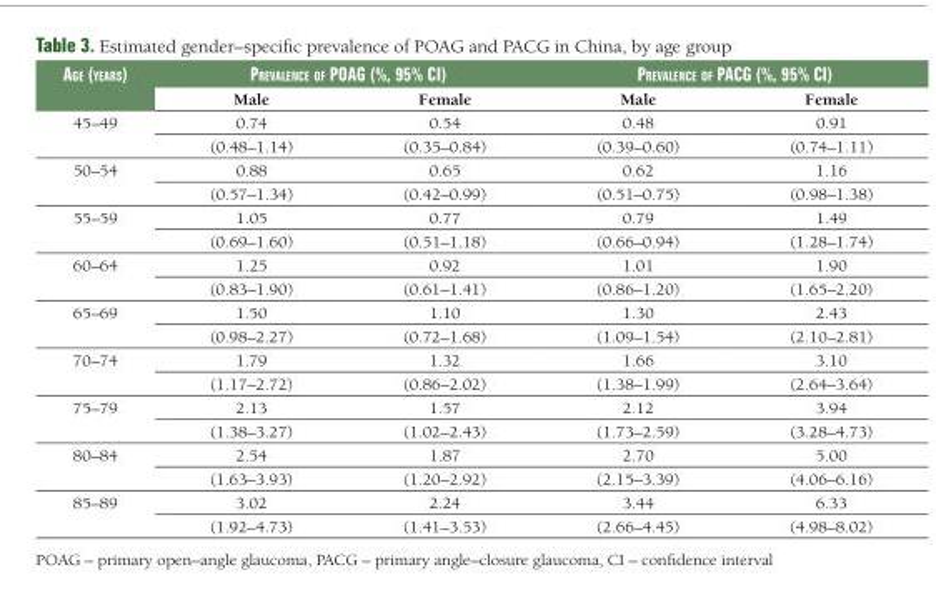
<table><thead><tr><td rowspan="2">age (yeaRs)</td><td colspan="2">pRevalence of poag (%, 95% ci)</td><td colspan="2">pRevalence of pacg (%, 95% ci)</td></tr><tr><td>Male</td><td>Female</td><td>Male</td><td>Female</td></tr></thead><tbody><tr><td rowspan="2">45–49</td><td>0.74</td><td>0.54</td><td>0.48</td><td>0.91</td></tr><tr><td>(0.48–1.14)</td><td>(0.35–0.84)</td><td>(0.39–0.60)</td><td>(0.74–1.11)</td></tr><tr><td rowspan="2">50–54</td><td>0.88</td><td>0.65</td><td>0.62</td><td>1.16</td></tr><tr><td>(0.57–1.34)</td><td>(0.42–0.99)</td><td>(0.51–0.75)</td><td>(0.98–1.38)</td></tr><tr><td rowspan="2">55–59</td><td>1.05</td><td>0.77</td><td>0.79</td><td>1.49</td></tr><tr><td>(0.69–1.60)</td><td>(0.51–1.18)</td><td>(0.66–0.94)</td><td>(1.28–1.74)</td></tr><tr><td rowspan="2">60–64</td><td>1.25</td><td>0.92</td><td>1.01</td><td>1.90</td></tr><tr><td>(0.83–1.90)</td><td>(0.61–1.41)</td><td>(0.86–1.20)</td><td>(1.65–2.20)</td></tr><tr><td rowspan="2">65–69</td><td>1.50</td><td>1.10</td><td>1.30</td><td>2.43</td></tr><tr><td>(0.98–2.27)</td><td>(0.72–1.68)</td><td>(1.09–1.54)</td><td>(2.10–2.81)</td></tr><tr><td rowspan="2">70–74</td><td>1.79</td><td>1.32</td><td>1.66</td><td>3.10</td></tr><tr><td>(1.17–2.72)</td><td>(0.86–2.02)</td><td>(1.38–1.99)</td><td>(2.64–3.64)</td></tr><tr><td rowspan="2">75–79</td><td>2.13</td><td>1.57</td><td>2.12</td><td>3.94</td></tr><tr><td>(1.38–3.27)</td><td>(1.02–2.43)</td><td>(1.73–2.59)</td><td>(3.28–4.73)</td></tr><tr><td rowspan="2">80–84</td><td>2.54</td><td>1.87</td><td>2.70</td><td>5.00</td></tr><tr><td>(1.63–3.93)</td><td>(1.20–2.92)</td><td>(2.15–3.39)</td><td>(4.06–6.16)</td></tr><tr><td rowspan="2">85–89</td><td>3.02</td><td>2.24</td><td>3.44</td><td>6.33</td></tr><tr><td>(1.92–4.73)</td><td>(1.41–3.53)</td><td>(2.66–4.45)</td><td>(4.98–8.02)</td></tr></tbody></table>